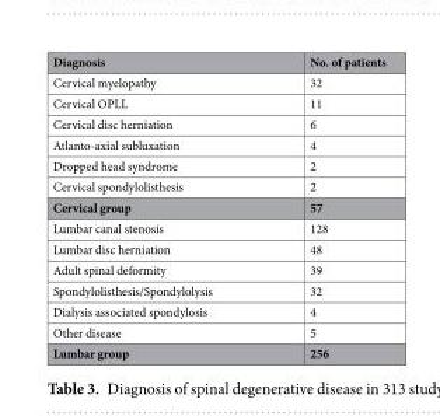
<table><thead><tr><td>Diagnosis</td><td>No. of patients</td></tr></thead><tbody><tr><td>Cervical myelopathy</td><td>32</td></tr><tr><td>Cervical OPLL</td><td>11</td></tr><tr><td>Cervical disc herniation</td><td>6</td></tr><tr><td>Atlanto-axial subluxation</td><td>4</td></tr><tr><td>Dropped head syndrome</td><td>2</td></tr><tr><td>Cervical spondylolisthesis</td><td>2</td></tr><tr><td>Cervical group</td><td>57</td></tr><tr><td>Lumbar canal stenosis</td><td>128</td></tr><tr><td>Lumbar disc herniation</td><td>48</td></tr><tr><td>Adult spinal deformity</td><td>39</td></tr><tr><td>Spondylolisthesis/Spondylolysis</td><td>32</td></tr><tr><td>Dialysis associated spondylosis</td><td>4</td></tr><tr><td>Other disease</td><td>5</td></tr><tr><td>Lumbar group</td><td>256</td></tr></tbody></table>